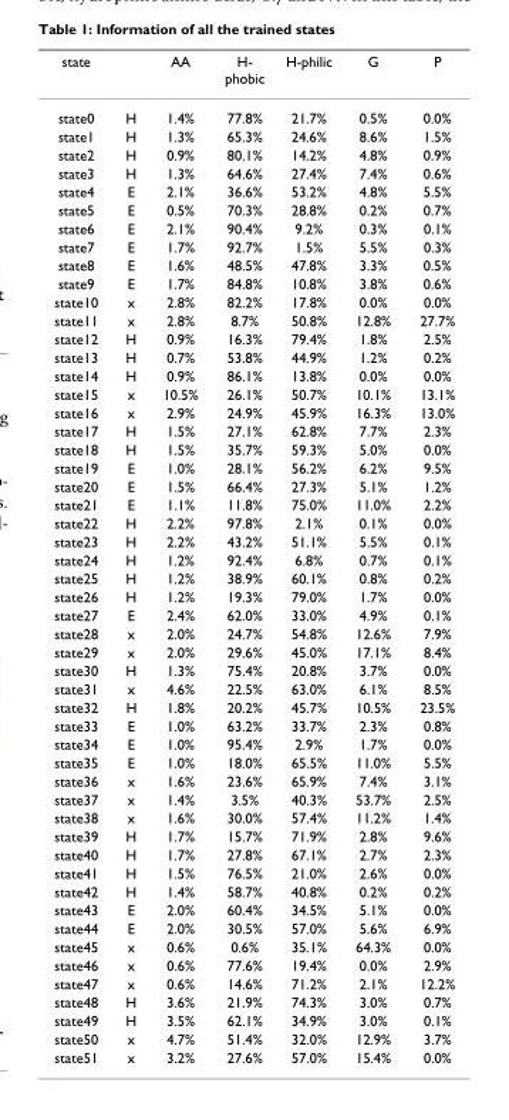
<table><thead><tr><td>state</td><td></td><td>AA</td><td>H- phobic</td><td>H-philic</td><td>G</td><td>P</td></tr></thead><tbody><tr><td>state0</td><td>H</td><td>1.4%</td><td>77.8%</td><td>21.7%</td><td>0.5%</td><td>0.0%</td></tr><tr><td>state1</td><td>H</td><td>1.3%</td><td>65.3%</td><td>24.6%</td><td>8.6%</td><td>1.5%</td></tr><tr><td>state2</td><td>H</td><td>0.9%</td><td>80.1%</td><td>14.2%</td><td>4.8%</td><td>0.9%</td></tr><tr><td>state3</td><td>H</td><td>1.3%</td><td>64.6%</td><td>27.4%</td><td>7.4%</td><td>0.6%</td></tr><tr><td>state4</td><td>E</td><td>2.1%</td><td>36.6%</td><td>53.2%</td><td>4.8%</td><td>5.5%</td></tr><tr><td>state5</td><td>E</td><td>0.5%</td><td>70.3%</td><td>28.8%</td><td>0.2%</td><td>0.7%</td></tr><tr><td>state6</td><td>E</td><td>2.1%</td><td>90.4%</td><td>9.2%</td><td>0.3%</td><td>0.1%</td></tr><tr><td>state7</td><td>E</td><td>1.7%</td><td>92.7%</td><td>1.5%</td><td>5.5%</td><td>0.3%</td></tr><tr><td>state8</td><td>E</td><td>1.6%</td><td>48.5%</td><td>47.8%</td><td>3.3%</td><td>0.5%</td></tr><tr><td>state9</td><td>E</td><td>1.7%</td><td>84.8%</td><td>10.8%</td><td>3.8%</td><td>0.6%</td></tr><tr><td>state10</td><td>x</td><td>2.8%</td><td>82.2%</td><td>17.8%</td><td>0.0%</td><td>0.0%</td></tr><tr><td>state11</td><td>x</td><td>2.8%</td><td>8.7%</td><td>50.8%</td><td>12.8%</td><td>27.7%</td></tr><tr><td>state12</td><td>H</td><td>0.9%</td><td>16.3%</td><td>79.4%</td><td>1.8%</td><td>2.5%</td></tr><tr><td>state13</td><td>H</td><td>0.7%</td><td>53.8%</td><td>44.9%</td><td>1.2%</td><td>0.2%</td></tr><tr><td>state14</td><td>H</td><td>0.9%</td><td>86.1%</td><td>13.8%</td><td>0.0%</td><td>0.0%</td></tr><tr><td>state15</td><td>x</td><td>10.5%</td><td>26.1%</td><td>50.7%</td><td>10.1%</td><td>13.1%</td></tr><tr><td>state16</td><td>x</td><td>2.9%</td><td>24.9%</td><td>45.9%</td><td>16.3%</td><td>13.0%</td></tr><tr><td>state17</td><td>H</td><td>1.5%</td><td>27.1%</td><td>62.8%</td><td>7.7%</td><td>2.3%</td></tr><tr><td>state18</td><td>H</td><td>1.5%</td><td>35.7%</td><td>59.3%</td><td>5.0%</td><td>0.0%</td></tr><tr><td>state19</td><td>E</td><td>1.0%</td><td>28.1%</td><td>56.2%</td><td>6.2%</td><td>9.5%</td></tr><tr><td>state20</td><td>E</td><td>1.5%</td><td>66.4%</td><td>27.3%</td><td>5.1%</td><td>1.2%</td></tr><tr><td>state21</td><td>E</td><td>1.1%</td><td>11.8%</td><td>75.0%</td><td>11.0%</td><td>2.2%</td></tr><tr><td>state22</td><td>H</td><td>2.2%</td><td>97.8%</td><td>2.1%</td><td>0.1%</td><td>0.0%</td></tr><tr><td>state23</td><td>H</td><td>2.2%</td><td>43.2%</td><td>51.1%</td><td>5.5%</td><td>0.1%</td></tr><tr><td>state24</td><td>H</td><td>1.2%</td><td>92.4%</td><td>6.8%</td><td>0.7%</td><td>0.1%</td></tr><tr><td>state25</td><td>H</td><td>1.2%</td><td>38.9%</td><td>60.1%</td><td>0.8%</td><td>0.2%</td></tr><tr><td>state26</td><td>H</td><td>1.2%</td><td>19.3%</td><td>79.0%</td><td>1.7%</td><td>0.0%</td></tr><tr><td>state27</td><td>E</td><td>2.4%</td><td>62.0%</td><td>33.0%</td><td>4.9%</td><td>0.1%</td></tr><tr><td>state28</td><td>x</td><td>2.0%</td><td>24.7%</td><td>54.8%</td><td>12.6%</td><td>7.9%</td></tr><tr><td>state29</td><td>x</td><td>2.0%</td><td>29.6%</td><td>45.0%</td><td>17.1%</td><td>8.4%</td></tr><tr><td>state30</td><td>H</td><td>1.3%</td><td>75.4%</td><td>20.8%</td><td>3.7%</td><td>0.0%</td></tr><tr><td>state31</td><td>x</td><td>4.6%</td><td>22.5%</td><td>63.0%</td><td>6.1%</td><td>8.5%</td></tr><tr><td>state32</td><td>H</td><td>1.8%</td><td>20.2%</td><td>45.7%</td><td>10.5%</td><td>23.5%</td></tr><tr><td>state33</td><td>E</td><td>1.0%</td><td>63.2%</td><td>33.7%</td><td>2.3%</td><td>0.8%</td></tr><tr><td>state34</td><td>E</td><td>1.0%</td><td>95.4%</td><td>2.9%</td><td>1.7%</td><td>0.0%</td></tr><tr><td>state35</td><td>E</td><td>1.0%</td><td>18.0%</td><td>65.5%</td><td>11.0%</td><td>5.5%</td></tr><tr><td>state36</td><td>x</td><td>1.6%</td><td>23.6%</td><td>65.9%</td><td>7.4%</td><td>3.1%</td></tr><tr><td>state37</td><td>x</td><td>1.4%</td><td>3.5%</td><td>40.3%</td><td>53.7%</td><td>2.5%</td></tr><tr><td>state38</td><td>x</td><td>1.6%</td><td>30.0%</td><td>57.4%</td><td>11.2%</td><td>1.4%</td></tr><tr><td>state39</td><td>H</td><td>1.7%</td><td>15.7%</td><td>71.9%</td><td>2.8%</td><td>9.6%</td></tr><tr><td>state40</td><td>H</td><td>1.7%</td><td>27.8%</td><td>67.1%</td><td>2.7%</td><td>2.3%</td></tr><tr><td>state41</td><td>H</td><td>1.5%</td><td>76.5%</td><td>21.0%</td><td>2.6%</td><td>0.0%</td></tr><tr><td>state42</td><td>H</td><td>1.4%</td><td>58.7%</td><td>40.8%</td><td>0.2%</td><td>0.2%</td></tr><tr><td>state43</td><td>E</td><td>2.0%</td><td>60.4%</td><td>34.5%</td><td>5.1%</td><td>0.0%</td></tr><tr><td>state44</td><td>E</td><td>2.0%</td><td>30.5%</td><td>57.0%</td><td>5.6%</td><td>6.9%</td></tr><tr><td>state45</td><td>x</td><td>0.6%</td><td>0.6%</td><td>35.1%</td><td>64.3%</td><td>0.0%</td></tr><tr><td>state46</td><td>x</td><td>0.6%</td><td>77.6%</td><td>19.4%</td><td>0.0%</td><td>2.9%</td></tr><tr><td>state47</td><td>x</td><td>0.6%</td><td>14.6%</td><td>71.2%</td><td>2.1%</td><td>12.2%</td></tr><tr><td>state48</td><td>H</td><td>3.6%</td><td>21.9%</td><td>74.3%</td><td>3.0%</td><td>0.7%</td></tr><tr><td>state49</td><td>H</td><td>3.5%</td><td>62.1%</td><td>34.9%</td><td>3.0%</td><td>0.1%</td></tr><tr><td>state50</td><td>x</td><td>4.7%</td><td>51.4%</td><td>32.0%</td><td>12.9%</td><td>3.7%</td></tr><tr><td>state51</td><td>x</td><td>3.2%</td><td>27.6%</td><td>57.0%</td><td>15.4%</td><td>0.0%</td></tr></tbody></table>